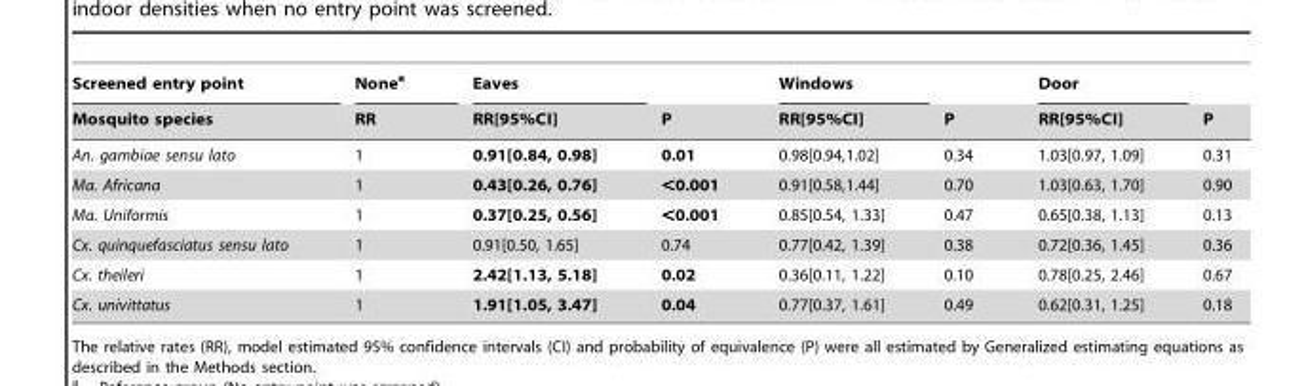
<table><thead><tr><td rowspan="2">Screened entry point Mosquito species</td><td rowspan="2">None<sup>a</sup> RR</td><td rowspan="2">Eaves RR[95%CI]</td><td rowspan="2">P</td><td rowspan="2">Windows RR[95%CI]</td><td rowspan="2">P</td><td rowspan="2">Door RR[95%CI]</td><td rowspan="2">P</td></tr><tr></tr></thead><tbody><tr><td>An. gambiae sensu lato</td><td>1</td><td>0.91[0.84, 0.98]</td><td>0.01</td><td>0.98[0.94,1.02]</td><td>0.34</td><td>1.03[0.97, 1.09]</td><td>0.31</td></tr><tr><td>Ma. Africana</td><td>1</td><td>0.43[0.26, 0.76]</td><td>&lt;0.001</td><td>0.91[0.58,1.44]</td><td>0.70</td><td>1.03[0.63, 1.70]</td><td>0.90</td></tr><tr><td>Ma. Uniformis</td><td>1</td><td>0.37[0.25, 0.56]</td><td>&lt;0.001</td><td>0.85[0.54, 1.33]</td><td>0.47</td><td>0.65[0.38, 1.13]</td><td>0.13</td></tr><tr><td>Cx. quinquefasciatus sensu lato</td><td>1</td><td>0.91[0.50, 1.65]</td><td>0.74</td><td>0.77[0.42, 1.39]</td><td>0.38</td><td>0.72[0.36, 1.45]</td><td>0.36</td></tr><tr><td>Cx. theileri</td><td>1</td><td>2.42[1.13, 5.18]</td><td>0.02</td><td>0.36[0.11, 1.22]</td><td>0.10</td><td>0.78[0.25, 2.46]</td><td>0.67</td></tr><tr><td>Cx. univittatus</td><td>1</td><td>1.91[1.05, 3.47]</td><td>0.04</td><td>0.77[0.37, 1.61]</td><td>0.49</td><td>0.62[0.31, 1.25]</td><td>0.18</td></tr></tbody></table>